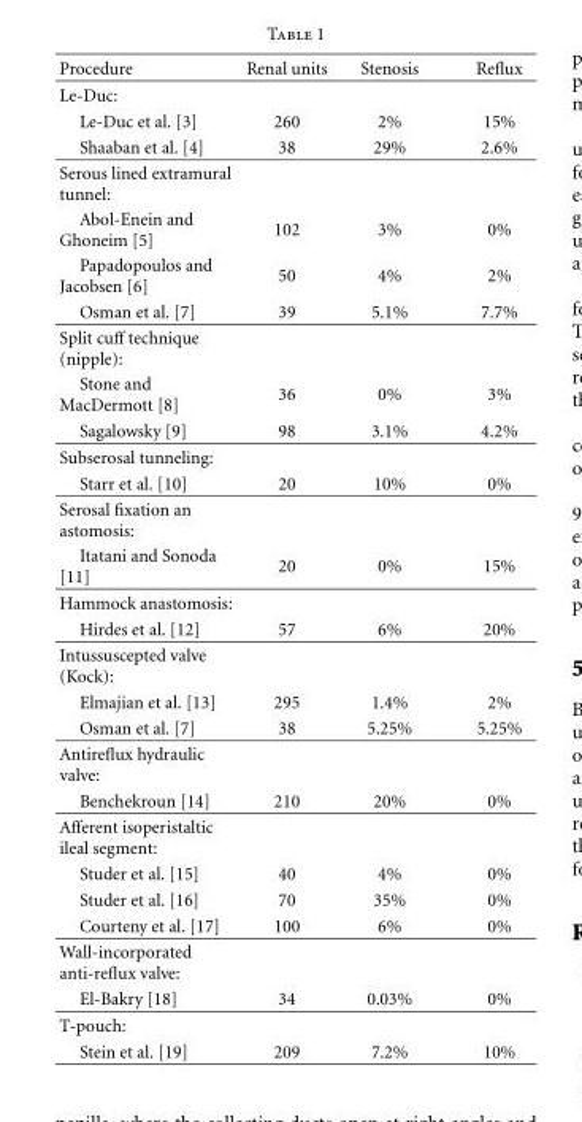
<table><thead><tr><td>Procedure</td><td>Renal units</td><td>Stenosis</td><td>Reflux</td></tr></thead><tbody><tr><td colspan="4">Le-Duc:</td></tr><tr><td>Le-Duc et al. [3]</td><td>260</td><td>2%</td><td>15%</td></tr><tr><td>Shaaban et al. [4]</td><td>38</td><td>29%</td><td>2.6%</td></tr><tr><td colspan="4">Serous lined extramural tunnel:</td></tr><tr><td>Abol-Enein and Ghoneim [5]</td><td>102</td><td>3%</td><td>0%</td></tr><tr><td>Papadopoulos and Jacobsen [6]</td><td>50</td><td>4%</td><td>2%</td></tr><tr><td>Osman et al. [7]</td><td>39</td><td>5.1%</td><td>7.7%</td></tr><tr><td colspan="4">Split cuff technique (nipple):</td></tr><tr><td>Stone and MacDermott [8]</td><td>36</td><td>0%</td><td>3%</td></tr><tr><td>Sagalowsky [9]</td><td>98</td><td>3.1%</td><td>4.2%</td></tr><tr><td colspan="4">Subserosal tunneling:</td></tr><tr><td>Starr et al. [10]</td><td>20</td><td>10%</td><td>0%</td></tr><tr><td colspan="4">Serosal fixation an astomosis:</td></tr><tr><td>Itatani and Sonoda [11]</td><td>20</td><td>0%</td><td>15%</td></tr><tr><td colspan="4">Hammock anastomosis:</td></tr><tr><td>Hirdes et al. [12]</td><td>57</td><td>6%</td><td>20%</td></tr><tr><td colspan="4">Intussuscepted valve (Kock):</td></tr><tr><td>Elmajian et al. [13]</td><td>295</td><td>1.4%</td><td>2%</td></tr><tr><td>Osman et al. [7]</td><td>38</td><td>5.25%</td><td>5.25%</td></tr><tr><td colspan="4">Antireflux hydraulic valve:</td></tr><tr><td>Benchekroun [14]</td><td>210</td><td>20%</td><td>0%</td></tr><tr><td colspan="4">Afferent isoperistaltic ileal segment:</td></tr><tr><td>Studer et al. [15]</td><td>40</td><td>4%</td><td>0%</td></tr><tr><td>Studer et al. [16]</td><td>70</td><td>35%</td><td>0%</td></tr><tr><td>Courteny et al. [17]</td><td>100</td><td>6%</td><td>0%</td></tr><tr><td colspan="4">Wall-incorporated anti-reflux valve:</td></tr><tr><td>El-Bakry [18]</td><td>34</td><td>0.03%</td><td>0%</td></tr><tr><td colspan="4">T-pouch:</td></tr><tr><td>Stein et al. [19]</td><td>209</td><td>7.2%</td><td>10%</td></tr></tbody></table>